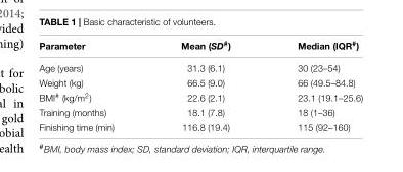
<table><thead><tr><td>Parameter</td><td>Mean (SD<sup>#</sup>)</td><td>Median (IQR<sup>#</sup>)</td></tr></thead><tbody><tr><td>Age (years)</td><td>31.3 (6.1)</td><td>30 (23–54)</td></tr><tr><td>Weight (kg)</td><td>66.5 (9.0)</td><td>66 (49.5–84.8)</td></tr><tr><td>BMI<sup>#</sup> (kg/m<sup>2</sup>)</td><td>22.6 (2.1)</td><td>23.1 (19.1–25.6)</td></tr><tr><td>Training (months)</td><td>18.1 (7.8)</td><td>18 (1–36)</td></tr><tr><td>Finishing time (min)</td><td>116.8 (19.4)</td><td>115 (92–160)</td></tr></tbody></table>